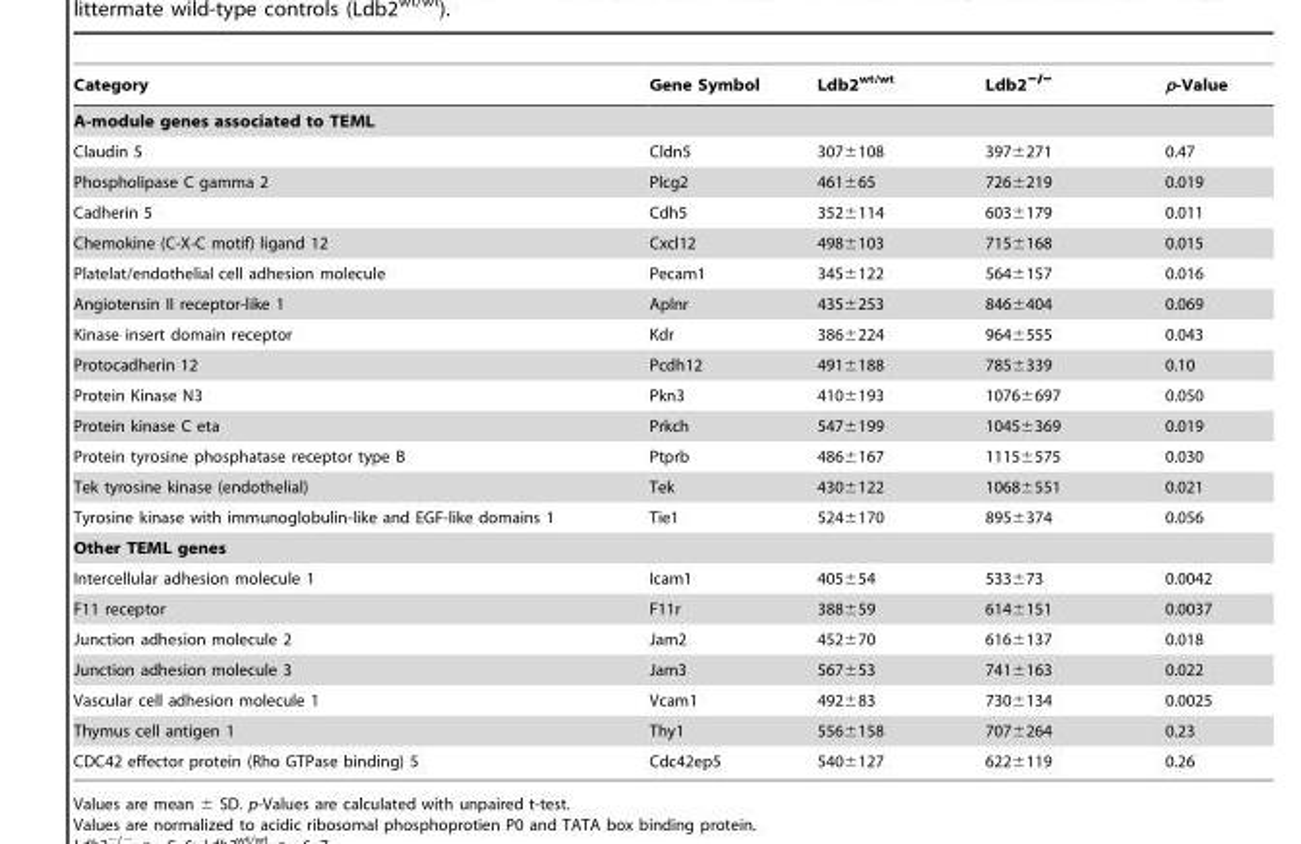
<table><thead><tr><td>Category</td><td>Gene Symbol</td><td>Ldb2<sup>wt/wt</sup></td><td>Ldb2<sup>−/−</sup></td><td>p-Value</td></tr></thead><tbody><tr><td colspan="5">A-module genes associated to TEML</td></tr><tr><td>Claudin 5</td><td>Cldn5</td><td>307±108</td><td>397±271</td><td>0.47</td></tr><tr><td>Phospholipase C gamma 2</td><td>Plcg2</td><td>461±65</td><td>726±219</td><td>0.019</td></tr><tr><td>Cadherin 5</td><td>Cdh5</td><td>352±114</td><td>603±179</td><td>0.011</td></tr><tr><td>Chemokine (C-X-C motif) ligand 12</td><td>Cxcl12</td><td>498±103</td><td>715±168</td><td>0.015</td></tr><tr><td>Platelat/endothelial cell adhesion molecule</td><td>Pecam1</td><td>345±122</td><td>564±157</td><td>0.016</td></tr><tr><td>Angiotensin II receptor-like 1</td><td>Aplnr</td><td>435±253</td><td>846±404</td><td>0.069</td></tr><tr><td>Kinase insert domain receptor</td><td>Kdr</td><td>386±224</td><td>964±555</td><td>0.043</td></tr><tr><td>Protocadherin 12</td><td>Pcdh12</td><td>491±188</td><td>785±339</td><td>0.10</td></tr><tr><td>Protein Kinase N3</td><td>Pkn3</td><td>410±193</td><td>1076±697</td><td>0.050</td></tr><tr><td>Protein kinase C eta</td><td>Prkch</td><td>547±199</td><td>1045±369</td><td>0.019</td></tr><tr><td>Protein tyrosine phosphatase receptor type B</td><td>Ptprb</td><td>486±167</td><td>1115±575</td><td>0.030</td></tr><tr><td>Tek tyrosine kinase (endothelial)</td><td>Tek</td><td>430±122</td><td>1068±551</td><td>0.021</td></tr><tr><td>Tyrosine kinase with immunoglobulin-like and EGF-like domains 1</td><td>Tie1</td><td>524±170</td><td>895±374</td><td>0.056</td></tr><tr><td colspan="5">Other TEML genes</td></tr><tr><td>Intercellular adhesion molecule 1</td><td>Icam1</td><td>405±54</td><td>533±73</td><td>0.0042</td></tr><tr><td>F11 receptor</td><td>F11r</td><td>388±59</td><td>614±151</td><td>0.0037</td></tr><tr><td>Junction adhesion molecule 2</td><td>Jam2</td><td>452±70</td><td>616±137</td><td>0.018</td></tr><tr><td>Junction adhesion molecule 3</td><td>Jam3</td><td>567±53</td><td>741±163</td><td>0.022</td></tr><tr><td>Vascular cell adhesion molecule 1</td><td>Vcam1</td><td>492±83</td><td>730±134</td><td>0.0025</td></tr><tr><td>Thymus cell antigen 1</td><td>Thy1</td><td>556±158</td><td>707±264</td><td>0.23</td></tr><tr><td>CDC42 effector protein (Rho GTPase binding) 5</td><td>Cdc42ep5</td><td>540±127</td><td>622±119</td><td>0.26</td></tr></tbody></table>